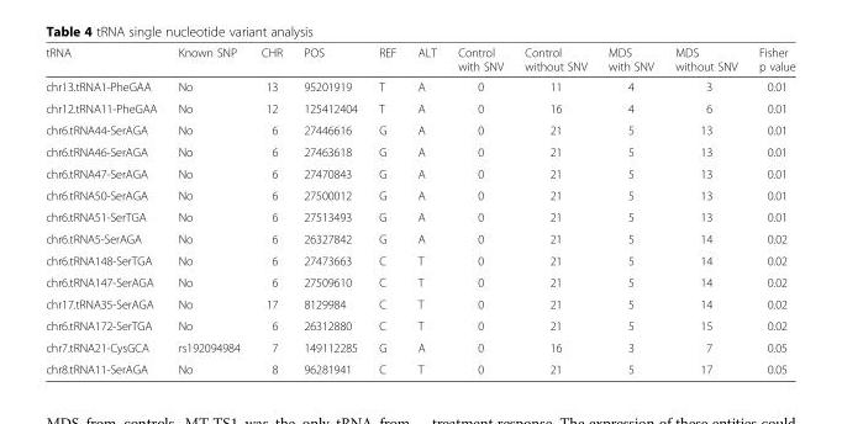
<table><thead><tr><td>tRNA</td><td>Known SNP</td><td>CHR</td><td>POS</td><td>REF</td><td>ALT</td><td>Control with SNV</td><td>Control without SNV</td><td>MDS with SNV</td><td>MDS without SNV</td><td>Fisher p value</td></tr></thead><tbody><tr><td>chr13.tRNA1-PheGAA</td><td>No</td><td>13</td><td>95201919</td><td>T</td><td>A</td><td>0</td><td>11</td><td>4</td><td>3</td><td>0.01</td></tr><tr><td>chr12.tRNA11-PheGAA</td><td>No</td><td>12</td><td>125412404</td><td>T</td><td>A</td><td>0</td><td>16</td><td>4</td><td>6</td><td>0.01</td></tr><tr><td>chr6.tRNA44-SerAGA</td><td>No</td><td>6</td><td>27446616</td><td>G</td><td>A</td><td>0</td><td>21</td><td>5</td><td>13</td><td>0.01</td></tr><tr><td>chr6.tRNA46-SerAGA</td><td>No</td><td>6</td><td>27463618</td><td>G</td><td>A</td><td>0</td><td>21</td><td>5</td><td>13</td><td>0.01</td></tr><tr><td>chr6.tRNA47-SerAGA</td><td>No</td><td>6</td><td>27470843</td><td>G</td><td>A</td><td>0</td><td>21</td><td>5</td><td>13</td><td>0.01</td></tr><tr><td>chr6.tRNA50-SerAGA</td><td>No</td><td>6</td><td>27500012</td><td>G</td><td>A</td><td>0</td><td>21</td><td>5</td><td>13</td><td>0.01</td></tr><tr><td>chr6.tRNA51-SerTGA</td><td>No</td><td>6</td><td>27513493</td><td>G</td><td>A</td><td>0</td><td>21</td><td>5</td><td>13</td><td>0.01</td></tr><tr><td>chr6.tRNA5-SerAGA</td><td>No</td><td>6</td><td>26327842</td><td>G</td><td>A</td><td>0</td><td>21</td><td>5</td><td>14</td><td>0.02</td></tr><tr><td>chr6.tRNA148-SerTGA</td><td>No</td><td>6</td><td>27473663</td><td>C</td><td>T</td><td>0</td><td>21</td><td>5</td><td>14</td><td>0.02</td></tr><tr><td>chr6.tRNA147-SerAGA</td><td>No</td><td>6</td><td>27509610</td><td>C</td><td>T</td><td>0</td><td>21</td><td>5</td><td>14</td><td>0.02</td></tr><tr><td>chr17.tRNA35-SerAGA</td><td>No</td><td>17</td><td>8129984</td><td>C</td><td>T</td><td>0</td><td>21</td><td>5</td><td>14</td><td>0.02</td></tr><tr><td>chr6.tRNA172-SerTGA</td><td>No</td><td>6</td><td>26312880</td><td>C</td><td>T</td><td>0</td><td>21</td><td>5</td><td>15</td><td>0.02</td></tr><tr><td>chr7.tRNA21-CysGCA</td><td>rs192094984</td><td>7</td><td>149112285</td><td>G</td><td>A</td><td>0</td><td>16</td><td>3</td><td>7</td><td>0.05</td></tr><tr><td>chr8.tRNA11-SerAGA</td><td>No</td><td>8</td><td>96281941</td><td>C</td><td>T</td><td>0</td><td>21</td><td>5</td><td>17</td><td>0.05</td></tr></tbody></table>